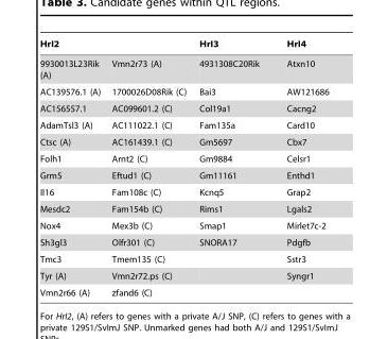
<table><thead><tr><td>HrI2</td><td></td><td>HrI3</td><td>HrI4</td></tr></thead><tbody><tr><td>9930013L23Rik (A)</td><td>Vmn2r73 (A)</td><td>4931308C20Rik</td><td>Atxn10</td></tr><tr><td>AC139576.1 (A)</td><td>1700026D08Rik (C)</td><td>Bai3</td><td>AW121686</td></tr><tr><td>AC156557.1</td><td>AC099601.2 (C)</td><td>Col19a1</td><td>Cacng2</td></tr><tr><td>AdamTsl3 (A)</td><td>AC111022.1 (C)</td><td>Fam135a</td><td>Card10</td></tr><tr><td>Ctsc (A)</td><td>AC161439.1 (C)</td><td>Gm5697</td><td>Cbx7</td></tr><tr><td>Folh1</td><td>Arnt2 (C)</td><td>Gm9884</td><td>Celsr1</td></tr><tr><td>Grm5</td><td>Eftud1 (C)</td><td>Gm11161</td><td>Enthd1</td></tr><tr><td>Il16</td><td>Fam108c (C)</td><td>Kcnq5</td><td>Grap2</td></tr><tr><td>Mesdc2</td><td>Fam154b (C)</td><td>Rims1</td><td>Lgals2</td></tr><tr><td>Nox4</td><td>Mex3b (C)</td><td>Smap1</td><td>Mirlet7c-2</td></tr><tr><td>Sh3gl3</td><td>Olfr301 (C)</td><td>SNORA17</td><td>Pdgfb</td></tr><tr><td>Tmc3</td><td>Tmem135 (C)</td><td></td><td>Sstr3</td></tr><tr><td>Tyr (A)</td><td>Vmn2r72.ps (C)</td><td></td><td>Syngr1</td></tr><tr><td>Vmn2r66 (A)</td><td>zfand6 (C)</td><td></td><td></td></tr></tbody></table>